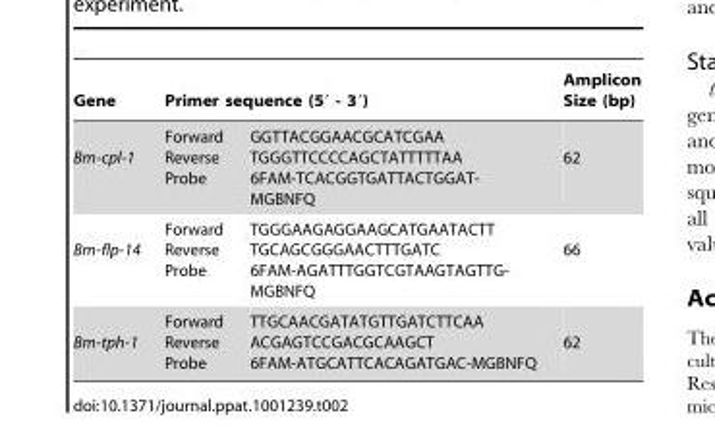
<table><thead><tr><td rowspan="2">Gene Bm-cpl-1</td><td colspan="2">Primer sequence (5′ - 3′)</td><td rowspan="2">Amplicon Size (bp) 62</td></tr><tr><td>Forward Reverse Probe</td><td>GGTTACGGAACGCATCGAA TGGGTTCCCCAGCTATTTTTAA 6FAM-TCACGGTGATTACTGGAT- MGBNFQ</td></tr></thead><tbody><tr><td>Bm-flp-14</td><td>Forward Reverse Probe</td><td>TGGGAAGAGGAAGCATGAATACTT TGCAGCGGGAACTTTGATC 6FAM-AGATTTGGTCGTAAGTAGTTG- MGBNFQ</td><td>66</td></tr><tr><td>Bm-tph-1</td><td>Forward Reverse Probe</td><td>TTGCAACGATATGTTGATCTTCAA ACGAGTCCGACGCAAGCT 6FAM-ATGCATTCACAGATGAC-MGBNFQ</td><td>62</td></tr></tbody></table>